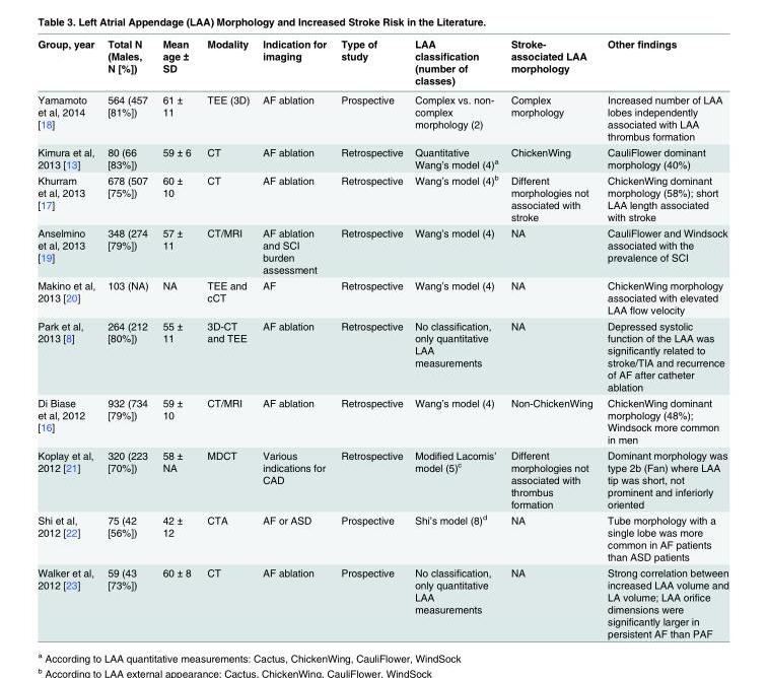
<table><thead><tr><td>Group, year</td><td>Total N (Males, N [%])</td><td>Mean age ± SD</td><td>Modality</td><td>Indication for imaging</td><td>Type of study</td><td>LAA classification (number of classes)</td><td>Stroke- associated LAA morphology</td><td>Other findings</td></tr></thead><tbody><tr><td>Yamamoto et al, 2014 [18]</td><td>564 (457 [81%])</td><td>61 ± 11</td><td>TEE (3D)</td><td>AF ablation</td><td>Prospective</td><td>Complex vs. non- complex morphology (2)</td><td>Complex morphology</td><td>Increased number of LAA lobes independently associated with LAA thrombus formation</td></tr><tr><td>Kimura et al, 2013 [13]</td><td>80 (66 [83%])</td><td>59 ± 6</td><td>CT</td><td>AF ablation</td><td>Retrospective</td><td>Quantitative Wang’s model (4)<sup>a</sup></td><td>ChickenWing</td><td>CauliFlower dominant morphology (40%)</td></tr><tr><td>Khurram et al, 2013 [17]</td><td>678 (507 [75%])</td><td>60 ± 10</td><td>CT</td><td>AF ablation</td><td>Retrospective</td><td>Wang’s model (4)<sup>b</sup></td><td>Different morphologies not associated with stroke</td><td>ChickenWing dominant morphology (58%); short LAA length associated with stroke</td></tr><tr><td>Anselmino et al, 2013 [19]</td><td>348 (274 [79%])</td><td>57 ± 11</td><td>CT/MRI</td><td>AF ablation and SCI burden assessment</td><td>Retrospective</td><td>Wang’s model (4)</td><td>NA</td><td>CauliFlower and Windsock associated with the prevalence of SCI</td></tr><tr><td>Makino et al, 2013 [20]</td><td>103 (NA)</td><td>NA</td><td>TEE and cCT</td><td>AF</td><td>Retrospective</td><td>Wang’s model (4)</td><td>NA</td><td>ChickenWing morphology associated with elevated LAA flow velocity</td></tr><tr><td>Park et al, 2013 [8]</td><td>264 (212 [80%])</td><td>55 ± 11</td><td>3D-CT and TEE</td><td>AF ablation</td><td>Retrospective</td><td>No classification, only quantitative LAA measurements</td><td>NA</td><td>Depressed systolic function of the LAA was significantly related to stroke/TIA and recurrence of AF after catheter ablation</td></tr><tr><td>Di Biase et al, 2012 [16]</td><td>932 (734 [79%])</td><td>59 ± 10</td><td>CT/MRI</td><td>AF ablation</td><td>Retrospective</td><td>Wang’s model (4)</td><td>Non-ChickenWing</td><td>ChickenWing dominant morphology (48%); Windsock more common in men</td></tr><tr><td>Koplay et al, 2012 [21]</td><td>320 (223 [70%])</td><td>58 ± NA</td><td>MDCT</td><td>Various indications for CAD</td><td>Retrospective</td><td>Modified Lacomis’ model (5)<sup>c</sup></td><td>Different morphologies not associated with thrombus formation</td><td>Dominant morphology was type 2b (Fan) where LAA tip was short, not prominent and inferiorly oriented</td></tr><tr><td>Shi et al, 2012 [22]</td><td>75 (42 [56%])</td><td>42 ± 12</td><td>CTA</td><td>AF or ASD</td><td>Prospective</td><td>Shi’s model (8)<sup>d</sup></td><td>NA</td><td>Tube morphology with a single lobe was more common in AF patients than ASD patients</td></tr><tr><td>Walker et al, 2012 [23]</td><td>59 (43 [73%])</td><td>60 ± 8</td><td>CT</td><td>AF ablation</td><td>Prospective</td><td>No classification, only quantitative LAA measurements</td><td>NA</td><td>Strong correlation between increased LAA volume and LA volume; LAA orifice dimensions were significantly larger in persistent AF than PAF</td></tr></tbody></table>